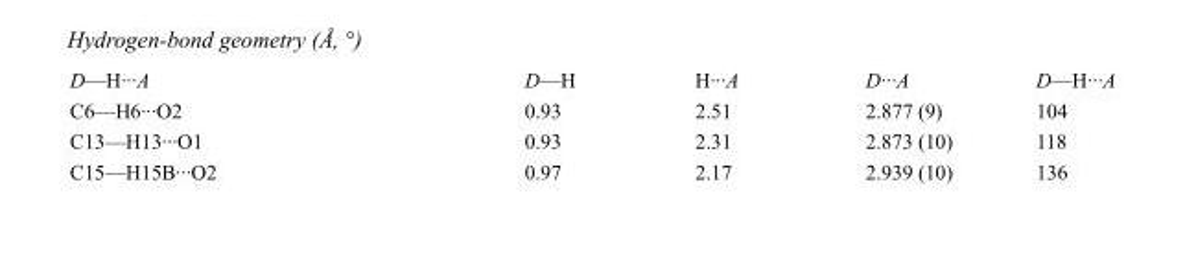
<table><tbody><tr><td>D—H···A</td><td>D—H</td><td>H···A</td><td>D···A</td><td>D—H···A</td></tr><tr><td>C6—H6···O2</td><td>0.93</td><td>2.51</td><td>2.877 (9)</td><td>104</td></tr><tr><td>C13—H13···O1</td><td>0.93</td><td>2.31</td><td>2.873 (10)</td><td>118</td></tr><tr><td>C15—H15B···O2</td><td>0.97</td><td>2.17</td><td>2.939 (10)</td><td>136</td></tr></tbody></table>